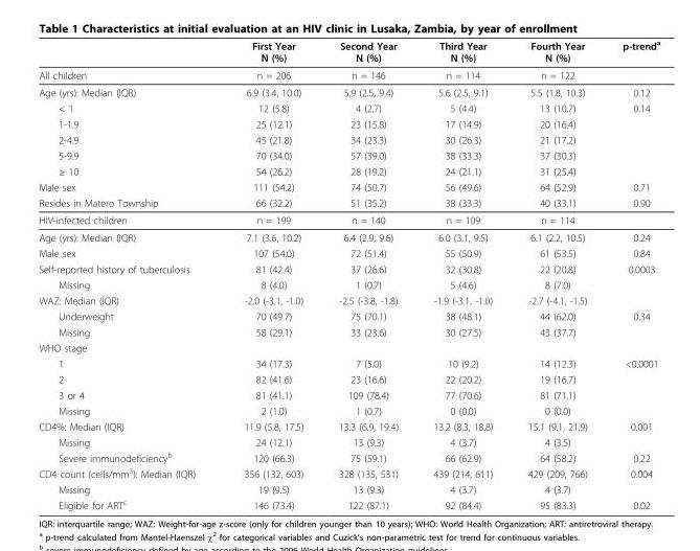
<table><thead><tr><td></td><td>First Year N (%)</td><td>Second Year N (%)</td><td>Third Year N (%)</td><td>Fourth Year N (%)</td><td>p-trend<sup>a</sup></td></tr></thead><tbody><tr><td>All children</td><td>n = 206</td><td>n = 146</td><td>n = 114</td><td>n = 122</td><td></td></tr><tr><td>Age (yrs): Median (IQR)</td><td>6.9 (3.4, 10.0)</td><td>5.9 (2.5, 9.4)</td><td>5.6 (2.5, 9.1)</td><td>5.5 (1.8, 10.3)</td><td>0.12</td></tr><tr><td>&lt; 1</td><td>12 (5.8)</td><td>4 (2.7)</td><td>5 (4.4)</td><td>13 (10.7)</td><td>0.14</td></tr><tr><td>1-1.9</td><td>25 (12.1)</td><td>23 (15.8)</td><td>17 (14.9)</td><td>20 (16.4)</td><td></td></tr><tr><td>2-4.9</td><td>45 (21.8)</td><td>34 (23.3)</td><td>30 (26.3)</td><td>21 (17.2)</td><td></td></tr><tr><td>5-9.9</td><td>70 (34.0)</td><td>57 (39.0)</td><td>38 (33.3)</td><td>37 (30.3)</td><td></td></tr><tr><td>≥ 10</td><td>54 (26.2)</td><td>28 (19.2)</td><td>24 (21.1)</td><td>31 (25.4)</td><td></td></tr><tr><td>Male sex</td><td>111 (54.2)</td><td>74 (50.7)</td><td>56 (49.6)</td><td>64 (52.9)</td><td>0.71</td></tr><tr><td>Resides in Matero Township</td><td>66 (32.2)</td><td>51 (35.2)</td><td>38 (33.3)</td><td>40 (33.1)</td><td>0.90</td></tr><tr><td>HIV-infected children</td><td>n = 199</td><td>n = 140</td><td>n = 109</td><td>n = 114</td><td></td></tr><tr><td>Age (yrs): Median (IQR)</td><td>7.1 (3.6, 10.2)</td><td>6.4 (2.9, 9.6)</td><td>6.0 (3.1, 9.5)</td><td>6.1 (2.2, 10.5)</td><td>0.24</td></tr><tr><td>Male sex</td><td>107 (54.0)</td><td>72 (51.4)</td><td>55 (50.9)</td><td>61 (53.5)</td><td>0.84</td></tr><tr><td>Self-reported history of tuberculosis</td><td>81 (42.4)</td><td>37 (26.6)</td><td>32 (30.8)</td><td>22 (20.8)</td><td>0.0003</td></tr><tr><td>Missing</td><td>8 (4.0)</td><td>1 (0.7)</td><td>5 (4.6)</td><td>8 (7.0)</td><td></td></tr><tr><td>WAZ: Median (IQR)</td><td>-2.0 (-3.1, -1.0)</td><td>-2.5 (-3.8, -1.8)</td><td>-1.9 (-3.1, -1.0)</td><td>-2.7 (-4.1, -1.5)</td><td></td></tr><tr><td>Underweight</td><td>70 (49.7)</td><td>75 (70.1)</td><td>38 (48.1)</td><td>44 (62.0)</td><td>0.34</td></tr><tr><td>Missing</td><td>58 (29.1)</td><td>33 (23.6)</td><td>30 (27.5)</td><td>43 (37.7)</td><td></td></tr><tr><td colspan="6">WHO stage</td></tr><tr><td>1</td><td>34 (17.3)</td><td>7 (5.0)</td><td>10 (9.2)</td><td>14 (12.3)</td><td>&lt;0.0001</td></tr><tr><td>2</td><td>82 (41.6)</td><td>23 (16.6)</td><td>22 (20.2)</td><td>19 (16.7)</td><td></td></tr><tr><td>3 or 4</td><td>81 (41.1)</td><td>109 (78.4)</td><td>77 (70.6)</td><td>81 (71.1)</td><td></td></tr><tr><td>Missing</td><td>2 (1.0)</td><td>1 (0.7)</td><td>0 (0.0)</td><td>0 (0.0)</td><td></td></tr><tr><td>CD4%: Median (IQR)</td><td>11.9 (5.8, 17.5)</td><td>13.3 (6.9, 19.4)</td><td>13.2 (8.3, 18.8)</td><td>15.1 (9.1, 21.9)</td><td>0.001</td></tr><tr><td>Missing</td><td>24 (12.1)</td><td>13 (9.3)</td><td>4 (3.7)</td><td>4 (3.5)</td><td></td></tr><tr><td>Severe immunodeficiency<sup>b</sup></td><td>120 (66.3)</td><td>75 (59.1)</td><td>66 (62.9)</td><td>64 (58.2)</td><td>0.22</td></tr><tr><td>CD4 count (cells/mm<sup>3</sup>): Median (IQR)</td><td>356 (132, 603)</td><td>328 (135, 531)</td><td>439 (214, 611)</td><td>429 (209, 766)</td><td>0.004</td></tr><tr><td>Missing</td><td>19 (9.5)</td><td>13 (9.3)</td><td>4 (3.7)</td><td>4 (3.7)</td><td></td></tr><tr><td>Eligible for ART<sup>c</sup></td><td>146 (73.4)</td><td>122 (87.1)</td><td>92 (84.4)</td><td>95 (83.3)</td><td>0.02</td></tr></tbody></table>